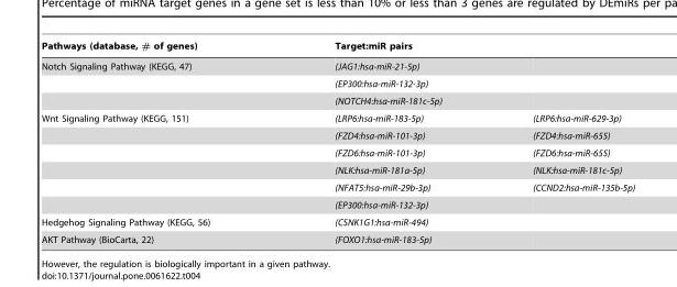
<table><thead><tr><td>Pathways (database, # of genes)</td><td>Target:miR pairs</td><td></td></tr></thead><tbody><tr><td rowspan="3">Notch Signaling Pathway (KEGG, 47)</td><td>(JAG1:hsa-miR-21-5p)</td><td></td></tr><tr><td>(EP300:hsa-miR-132-3p)</td><td></td></tr><tr><td>(NOTCH4:hsa-miR-181c-5p)</td><td></td></tr><tr><td rowspan="6">Wnt Signaling Pathway (KEGG, 151)</td><td>(LRP6:hsa-miR-183-5p)</td><td>(LRP6:hsa-miR-629-3p)</td></tr><tr><td>(FZD4:hsa-miR-101-3p)</td><td>(FZD4:hsa-miR-655)</td></tr><tr><td>(FZD6:hsa-miR-101-3p)</td><td>(FZD6:hsa-miR-655)</td></tr><tr><td>(NLK:hsa-miR-181a-5p)</td><td>(NLK:hsa-miR-181c-5p)</td></tr><tr><td>(NFAT5:hsa-miR-29b-3p)</td><td>(CCND2:hsa-miR-135b-5p)</td></tr><tr><td>(EP300:hsa-miR-132-3p)</td><td></td></tr><tr><td>Hedgehog Signaling Pathway (KEGG, 56)</td><td>(CSNK1G1:hsa-miR-494)</td><td></td></tr><tr><td>AKT Pathway (BioCarta, 22)</td><td>(FOXO1:hsa-miR-183-5p)</td><td></td></tr></tbody></table>